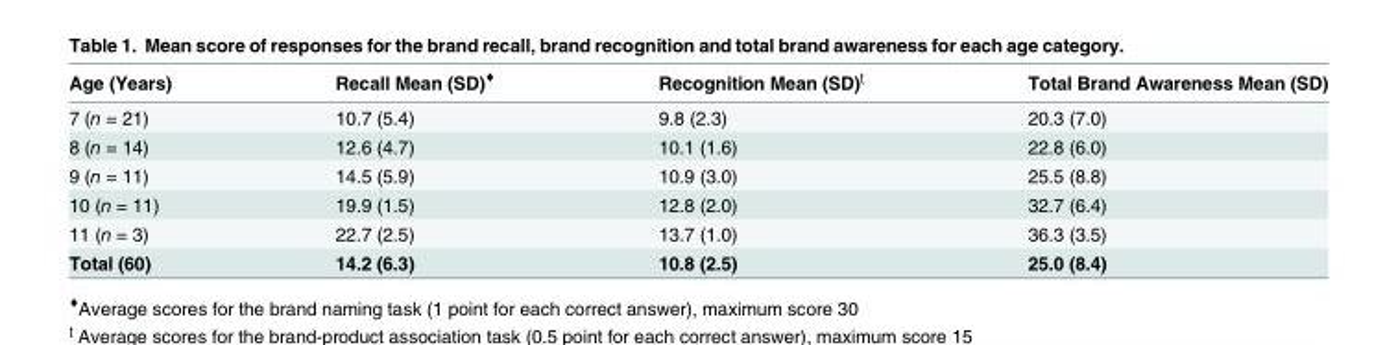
<table><thead><tr><td>Age (Years)</td><td>Recall Mean (SD)<sup>♦</sup></td><td>Recognition Mean (SD)<sup>ʈ</sup></td><td>Total Brand Awareness Mean (SD)</td></tr></thead><tbody><tr><td>7 (n = 21)</td><td>10.7 (5.4)</td><td>9.8 (2.3)</td><td>20.3 (7.0)</td></tr><tr><td>8 (n = 14)</td><td>12.6 (4.7)</td><td>10.1 (1.6)</td><td>22.8 (6.0)</td></tr><tr><td>9 (n = 11)</td><td>14.5 (5.9)</td><td>10.9 (3.0)</td><td>25.5 (8.8)</td></tr><tr><td>10 (n = 11)</td><td>19.9 (1.5)</td><td>12.8 (2.0)</td><td>32.7 (6.4)</td></tr><tr><td>11 (n = 3)</td><td>22.7 (2.5)</td><td>13.7 (1.0)</td><td>36.3 (3.5)</td></tr><tr><td>Total (60)</td><td>14.2 (6.3)</td><td>10.8 (2.5)</td><td>25.0 (8.4)</td></tr></tbody></table>